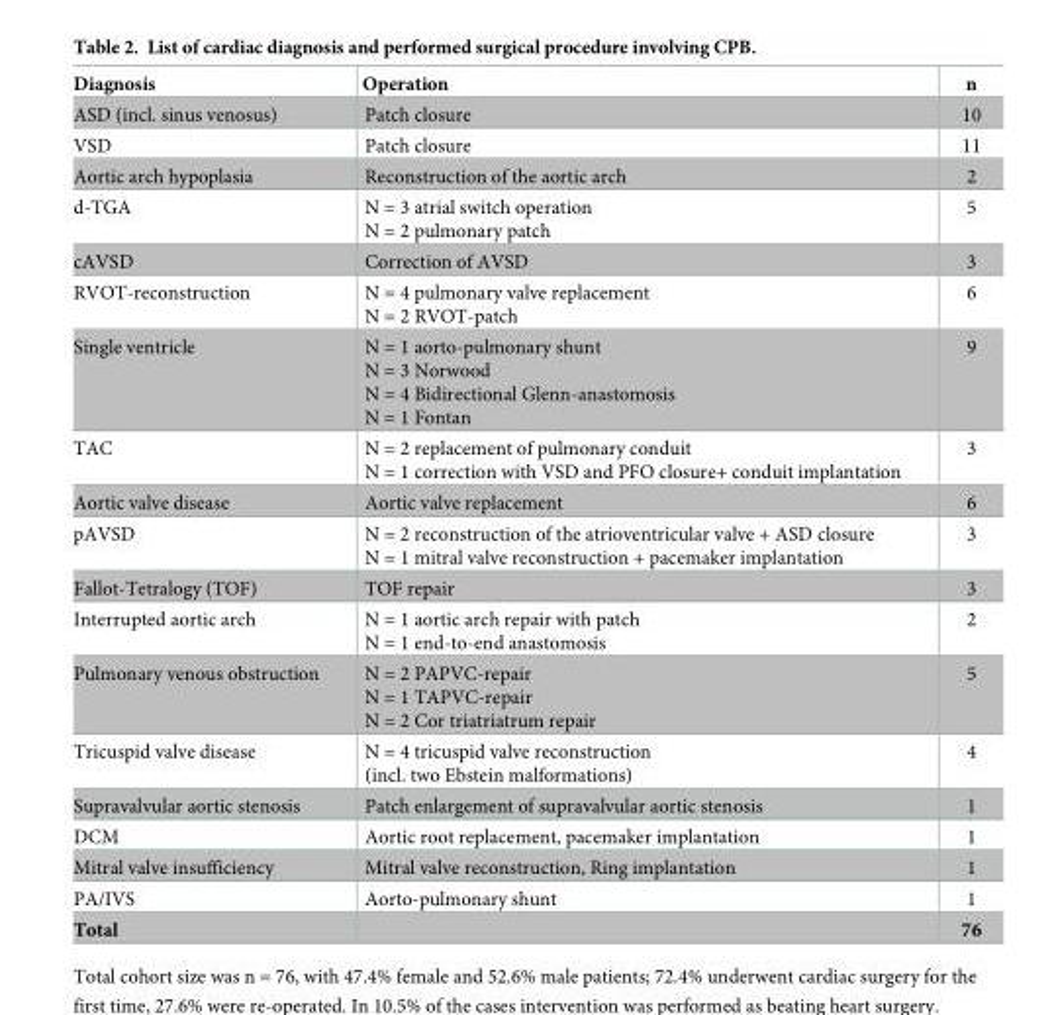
<table><thead><tr><td>Diagnosis</td><td>Operation</td><td>n</td></tr></thead><tbody><tr><td>ASD (incl. sinus venosus)</td><td>Patch closure</td><td>10</td></tr><tr><td>VSD</td><td>Patch closure</td><td>11</td></tr><tr><td>Aortic arch hypoplasia</td><td>Reconstruction of the aortic arch</td><td>2</td></tr><tr><td>d-TGA</td><td>N = 3 atrial switch operation N = 2 pulmonary patch</td><td>5</td></tr><tr><td>cAVSD</td><td>Correction of AVSD</td><td>3</td></tr><tr><td>RVOT-reconstruction</td><td>N = 4 pulmonary valve replacement N = 2 RVOT-patch</td><td>6</td></tr><tr><td>Single ventricle</td><td>N = 1 aorto-pulmonary shunt N = 3 Norwood N = 4 Bidirectional Glenn-anastomosis N = 1 Fontan</td><td>9</td></tr><tr><td>TAC</td><td>N = 2 replacement of pulmonary conduit N = 1 correction with VSD and PFO closure+ conduit implantation</td><td>3</td></tr><tr><td>Aortic valve disease</td><td>Aortic valve replacement</td><td>6</td></tr><tr><td>pAVSD</td><td>N = 2 reconstruction of the atrioventricular valve + ASD closure N = 1 mitral valve reconstruction + pacemaker implantation</td><td>3</td></tr><tr><td>Fallot-Tetralogy (TOF)</td><td>TOF repair</td><td>3</td></tr><tr><td>Interrupted aortic arch</td><td>N = 1 aortic arch repair with patch N = 1 end-to-end anastomosis</td><td>2</td></tr><tr><td>Pulmonary venous obstruction</td><td>N = 2 PAPVC-repair N = 1 TAPVC-repair N = 2 Cor triatriatrum repair</td><td>5</td></tr><tr><td>Tricuspid valve disease</td><td>N = 4 tricuspid valve reconstruction (incl. two Ebstein malformations)</td><td>4</td></tr><tr><td>Supravalvular aortic stenosis</td><td>Patch enlargement of supravalvular aortic stenosis</td><td>1</td></tr><tr><td>DCM</td><td>Aortic root replacement, pacemaker implantation</td><td>1</td></tr><tr><td>Mitral valve insufficiency</td><td>Mitral valve reconstruction, Ring implantation</td><td>1</td></tr><tr><td>PA/IVS</td><td>Aorto-pulmonary shunt</td><td>1</td></tr><tr><td>Total</td><td></td><td>76</td></tr></tbody></table>